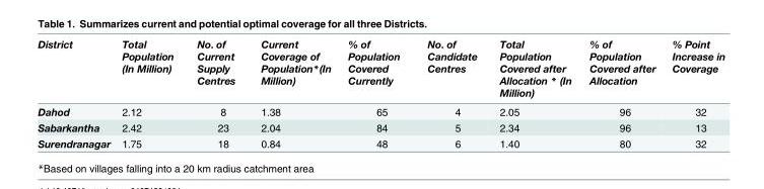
<table><thead><tr><td>District</td><td>Total Population (In Million)</td><td>No. of Current Supply Centres</td><td>Current Coverage of Population*(In Million)</td><td>% of Population Covered Currently</td><td>No. of Candidate Centres</td><td>Total Population Covered after Allocation * (In Million)</td><td>% of Population Covered after Allocation</td><td>% Point Increase in Coverage</td></tr></thead><tbody><tr><td>Dahod</td><td>2.12</td><td>8</td><td>1.38</td><td>65</td><td>4</td><td>2.05</td><td>96</td><td>32</td></tr><tr><td>Sabarkantha</td><td>2.42</td><td>23</td><td>2.04</td><td>84</td><td>5</td><td>2.34</td><td>96</td><td>13</td></tr><tr><td>Surendranagar</td><td>1.75</td><td>18</td><td>0.84</td><td>48</td><td>6</td><td>1.40</td><td>80</td><td>32</td></tr></tbody></table>